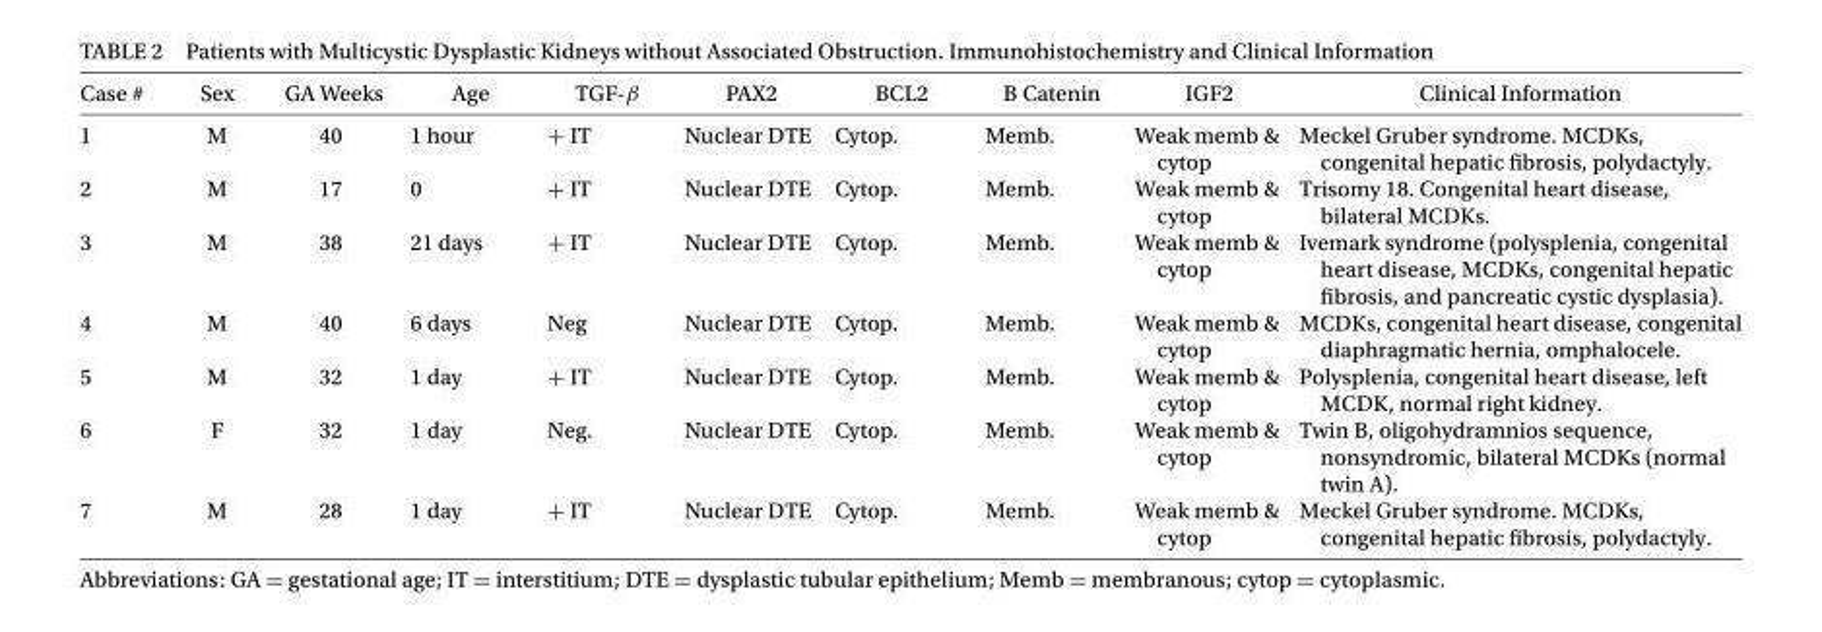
<table><thead><tr><td>Case #</td><td>Sex</td><td>GA Weeks</td><td>Age</td><td>TGF-β</td><td>PAX2</td><td>BCL2</td><td>B Catenin</td><td>IGF2</td><td>Clinical Information</td></tr></thead><tbody><tr><td>1</td><td>M</td><td>40</td><td>1 hour</td><td>+ IT</td><td>Nuclear DTE</td><td>Cytop.</td><td>Memb.</td><td>Weak memb &amp; cytop</td><td>Meckel Gruber syndrome. MCDKs, congenital hepatic fibrosis, polydactyly.</td></tr><tr><td>2</td><td>M</td><td>17</td><td>0</td><td>+ IT</td><td>Nuclear DTE</td><td>Cytop.</td><td>Memb.</td><td>Weak memb &amp; cytop</td><td>Trisomy 18. Congenital heart disease, bilateral MCDKs.</td></tr><tr><td>3</td><td>M</td><td>38</td><td>21 days</td><td>+ IT</td><td>Nuclear DTE</td><td>Cytop.</td><td>Memb.</td><td>Weak memb &amp; cytop</td><td>Ivemark syndrome (polysplenia, congenital heart disease, MCDKs, congenital hepatic fibrosis, and pancreatic cystic dysplasia).</td></tr><tr><td>4</td><td>M</td><td>40</td><td>6 days</td><td>Neg</td><td>Nuclear DTE</td><td>Cytop.</td><td>Memb.</td><td>Weak memb &amp; cytop</td><td>MCDKs, congenital heart disease, congenital diaphragmatic hernia, omphalocele.</td></tr><tr><td>5</td><td>M</td><td>32</td><td>1 day</td><td>+ IT</td><td>Nuclear DTE</td><td>Cytop.</td><td>Memb.</td><td>Weak memb &amp; cytop</td><td>Polysplenia, congenital heart disease, left MCDK, normal right kidney.</td></tr><tr><td>6</td><td>F</td><td>32</td><td>1 day</td><td>Neg.</td><td>Nuclear DTE</td><td>Cytop.</td><td>Memb.</td><td>Weak memb &amp; cytop</td><td>Twin B, oligohydramnios sequence, nonsyndromic, bilateral MCDKs (normal twin A).</td></tr><tr><td>7</td><td>M</td><td>28</td><td>1 day</td><td>+ IT</td><td>Nuclear DTE</td><td>Cytop.</td><td>Memb.</td><td>Weak memb &amp; cytop</td><td>Meckel Gruber syndrome. MCDKs, congenital hepatic fibrosis, polydactyly.</td></tr></tbody></table>